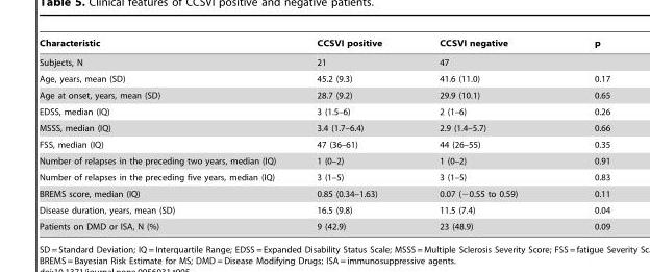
<table><thead><tr><td>Characteristic</td><td>CCSVI positive</td><td>CCSVI negative</td><td>p</td></tr></thead><tbody><tr><td>Subjects, N</td><td>21</td><td>47</td><td></td></tr><tr><td>Age, years, mean (SD)</td><td>45.2 (9.3)</td><td>41.6 (11.0)</td><td>0.17</td></tr><tr><td>Age at onset, years, mean (SD)</td><td>28.7 (9.2)</td><td>29.9 (10.1)</td><td>0.65</td></tr><tr><td>EDSS, median (IQ)</td><td>3 (1.5–6)</td><td>2 (1–6)</td><td>0.26</td></tr><tr><td>MSSS, median (IQ)</td><td>3.4 (1.7–6.4)</td><td>2.9 (1.4–5.7)</td><td>0.66</td></tr><tr><td>FSS, median (IQ)</td><td>47 (36–61)</td><td>44 (26–55)</td><td>0.35</td></tr><tr><td>Number of relapses in the preceding two years, median (IQ)</td><td>1 (0–2)</td><td>1 (0–2)</td><td>0.91</td></tr><tr><td>Number of relapses in the preceding five years, median (IQ)</td><td>3 (1–5)</td><td>3 (1–5)</td><td>0.83</td></tr><tr><td>BREMS score, median (IQ)</td><td>0.85 (0.34–1.63)</td><td>0.07 (−0.55 to 0.59)</td><td>0.11</td></tr><tr><td>Disease duration, years, mean (SD)</td><td>16.5 (9.8)</td><td>11.5 (7.4)</td><td>0.04</td></tr><tr><td>Patients on DMD or ISA, N (%)</td><td>9 (42.9)</td><td>23 (48.9)</td><td>0.09</td></tr></tbody></table>